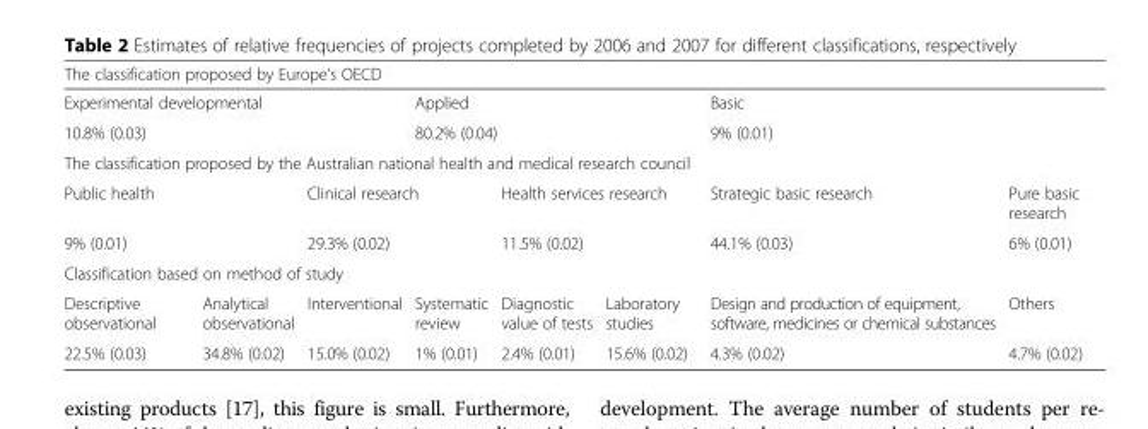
<table><thead><tr><td colspan="8">The classification proposed by Europe’s OECD</td></tr></thead><tbody><tr><td colspan="3">Experimental developmental</td><td colspan="3">Applied</td><td colspan="2">Basic</td></tr><tr><td colspan="3">10.8% (0.03)</td><td colspan="3">80.2% (0.04)</td><td colspan="2">9% (0.01)</td></tr><tr><td colspan="8">The classification proposed by the Australian national health and medical research council</td></tr><tr><td colspan="2">Public health</td><td colspan="2">Clinical research</td><td colspan="2">Health services research</td><td>Strategic basic research</td><td>Pure basic research</td></tr><tr><td colspan="2">9% (0.01)</td><td colspan="2">29.3% (0.02)</td><td colspan="2">11.5% (0.02)</td><td>44.1% (0.03)</td><td>6% (0.01)</td></tr><tr><td colspan="8">Classification based on method of study</td></tr><tr><td>Descriptive observational</td><td>Analytical observational</td><td>Interventional</td><td>Systematic review</td><td>Diagnostic value of tests</td><td>Laboratory studies</td><td>Design and production of equipment, software, medicines or chemical substances</td><td>Others</td></tr><tr><td>22.5% (0.03)</td><td>34.8% (0.02)</td><td>15.0% (0.02)</td><td>1% (0.01)</td><td>2.4% (0.01)</td><td>15.6% (0.02)</td><td>4.3% (0.02)</td><td>4.7% (0.02)</td></tr></tbody></table>